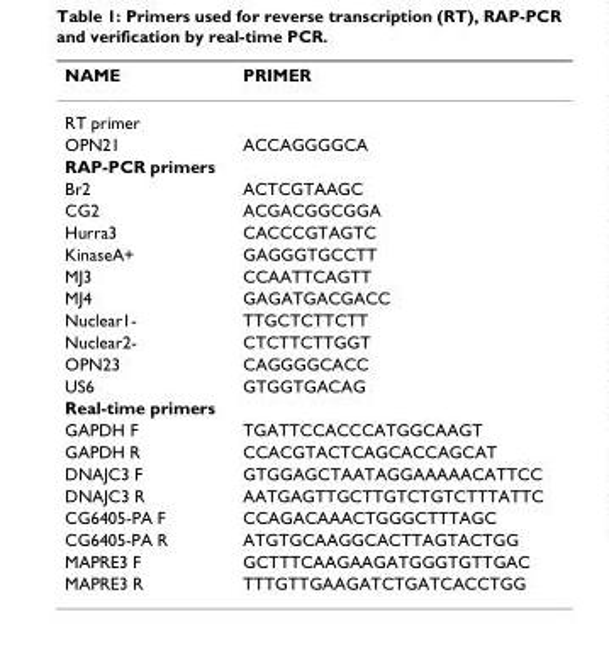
<table><thead><tr><td>NAME</td><td>PRIMER</td></tr></thead><tbody><tr><td colspan="2">RT primer</td></tr><tr><td>OPN21</td><td>ACCAGGGGCA</td></tr><tr><td colspan="2">RAP-PCR primers</td></tr><tr><td>Br2</td><td>ACTCGTAAGC</td></tr><tr><td>CG2</td><td>ACGACGGCGGA</td></tr><tr><td>Hurra3</td><td>CACCCGTAGTC</td></tr><tr><td>KinaseA+</td><td>GAGGGTGCCTT</td></tr><tr><td>MJ3</td><td>CCAATTCAGTT</td></tr><tr><td>MJ4</td><td>GAGATGACGACC</td></tr><tr><td>Nuclear1-</td><td>TTGCTCTTCTT</td></tr><tr><td>Nuclear2-</td><td>CTCTTCTTGGT</td></tr><tr><td>OPN23</td><td>CAGGGGCACC</td></tr><tr><td>US6</td><td>GTGGTGACAG</td></tr><tr><td colspan="2">Real-time primers</td></tr><tr><td>GAPDH F</td><td>TGATTCCACCCATGGCAAGT</td></tr><tr><td>GAPDH R</td><td>CCACGTACTCAGCACCAGCAT</td></tr><tr><td>DNAJC3 F</td><td>GTGGAGCTAATAGGAAAAACATTCC</td></tr><tr><td>DNAJC3 R</td><td>AATGAGTTGCTTGTCTGTCTTTATTC</td></tr><tr><td>CG6405-PA F</td><td>CCAGACAAACTGGGCTTTAGC</td></tr><tr><td>CG6405-PA R</td><td>ATGTGCAAGGCACTTAGTACTGG</td></tr><tr><td>MAPRE3 F</td><td>GCTTTCAAGAAGATGGGTGTTGAC</td></tr><tr><td>MAPRE3 R</td><td>TTTGTTGAAGATCTGATCACCTGG</td></tr></tbody></table>